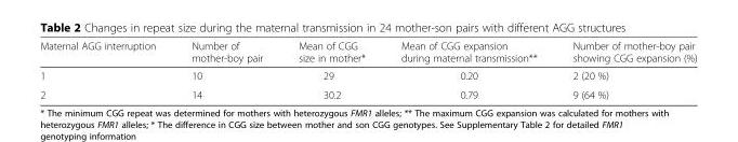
<table><thead><tr><td>Maternal AGG interruption</td><td>Number of mother-boy pair</td><td>Mean of CGG size in mother*</td><td>Mean of CGG expansion during maternal transmission**</td><td>Number of mother-boy pair showing CGG expansion (%)</td></tr></thead><tbody><tr><td>1</td><td>10</td><td>29</td><td>0.20</td><td>2 (20 %)</td></tr><tr><td>2</td><td>14</td><td>30.2</td><td>0.79</td><td>9 (64 %)</td></tr></tbody></table>